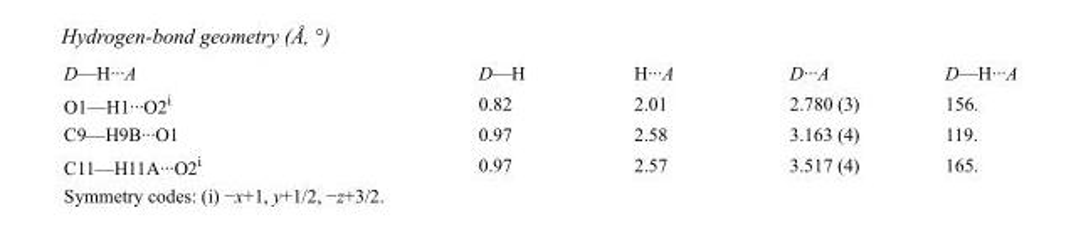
<table><tbody><tr><td>D—H···A</td><td>D—H</td><td>H···A</td><td>D···A</td><td>D—H···A</td></tr><tr><td>O1—H1···O2<sup>i</sup></td><td>0.82</td><td>2.01</td><td>2.780 (3)</td><td>156.</td></tr><tr><td>C9—H9B···O1</td><td>0.97</td><td>2.58</td><td>3.163 (4)</td><td>119.</td></tr><tr><td>C11—H11A···O2<sup>i</sup></td><td>0.97</td><td>2.57</td><td>3.517 (4)</td><td>165.</td></tr></tbody></table>